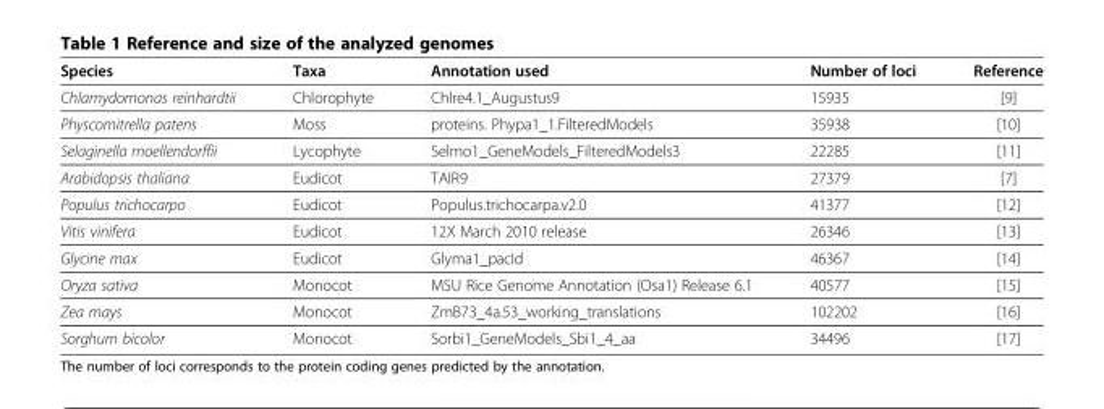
<table><thead><tr><td>Species</td><td>Taxa</td><td>Annotation used</td><td>Number of loci</td><td>Reference</td></tr></thead><tbody><tr><td>Chlamydomonas reinhardtii</td><td>Chlorophyte</td><td>Chlre4.1_Augustus9</td><td>15935</td><td>[9]</td></tr><tr><td>Physcomitrella patens</td><td>Moss</td><td>proteins. Phypa1_1.FilteredModels</td><td>35938</td><td>[10]</td></tr><tr><td>Selaginella moellendorffii</td><td>Lycophyte</td><td>Selmo1_GeneModels_FilteredModels3</td><td>22285</td><td>[11]</td></tr><tr><td>Arabidopsis thaliana</td><td>Eudicot</td><td>TAIR9</td><td>27379</td><td>[7]</td></tr><tr><td>Populus trichocarpo</td><td>Eudicot</td><td>Populus.trichocarpa.v2.0</td><td>41377</td><td>[12]</td></tr><tr><td>Vitis vinifera</td><td>Eudicot</td><td>12X March 2010 release</td><td>26346</td><td>[13]</td></tr><tr><td>Glycine max</td><td>Eudicot</td><td>Glyma1_pacId</td><td>46367</td><td>[14]</td></tr><tr><td>Oryza sativa</td><td>Monocot</td><td>MSU Rice Genome Annotation (Osa1) Release 6.1</td><td>40577</td><td>[15]</td></tr><tr><td>Zea mays</td><td>Monocot</td><td>ZmB73_4a.53_working_translations</td><td>102202</td><td>[16]</td></tr><tr><td>Sorghum bicolor</td><td>Monocot</td><td>Sorbi1_GeneModels_Sbi1_4_aa</td><td>34496</td><td>[17]</td></tr></tbody></table>